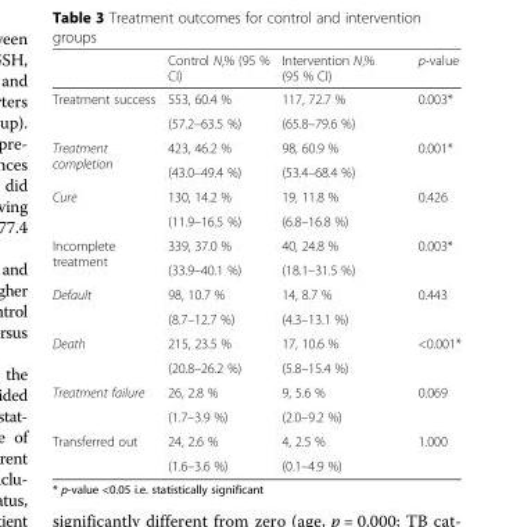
<table><thead><tr><td></td><td>Control N,% (95 % CI)</td><td>Intervention N,% (95 % CI)</td><td>p-value</td></tr></thead><tbody><tr><td rowspan="2">Treatment success</td><td>553, 60.4 %</td><td>117, 72.7 %</td><td rowspan="2">0.003*</td></tr><tr><td>(57.2–63.5 %)</td><td>(65.8–79.6 %)</td></tr><tr><td rowspan="2">Treatment completion</td><td>423, 46.2 %</td><td>98, 60.9 %</td><td rowspan="2">0.001*</td></tr><tr><td>(43.0–49.4 %)</td><td>(53.4–68.4 %)</td></tr><tr><td rowspan="2">Cure</td><td>130, 14.2 %</td><td>19, 11.8 %</td><td rowspan="2">0.426</td></tr><tr><td>(11.9–16.5 %)</td><td>(6.8–16.8 %)</td></tr><tr><td rowspan="2">Incomplete treatment</td><td>339, 37.0 %</td><td>40, 24.8 %</td><td rowspan="2">0.003*</td></tr><tr><td>(33.9–40.1 %)</td><td>(18.1–31.5 %)</td></tr><tr><td rowspan="2">Default</td><td>98, 10.7 %</td><td>14, 8.7 %</td><td rowspan="2">0.443</td></tr><tr><td>(8.7–12.7 %)</td><td>(4.3–13.1 %)</td></tr><tr><td rowspan="2">Death</td><td>215, 23.5 %</td><td>17, 10.6 %</td><td rowspan="2">&lt;0.001*</td></tr><tr><td>(20.8–26.2 %)</td><td>(5.8–15.4 %)</td></tr><tr><td rowspan="2">Treatment failure</td><td>26, 2.8 %</td><td>9, 5.6 %</td><td rowspan="2">0.069</td></tr><tr><td>(1.7–3.9 %)</td><td>(2.0–9.2 %)</td></tr><tr><td rowspan="2">Transferred out</td><td>24, 2.6 %</td><td>4, 2.5 %</td><td rowspan="2">1.000</td></tr><tr><td>(1.6–3.6 %)</td><td>(0.1–4.9 %)</td></tr></tbody></table>